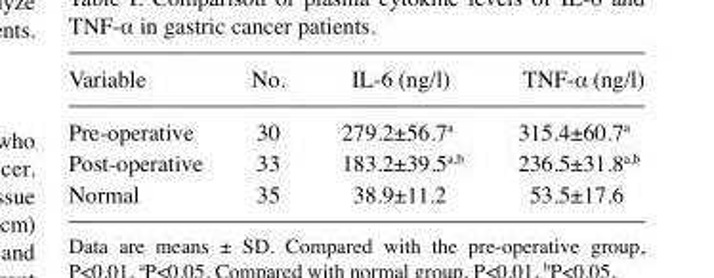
<table><thead><tr><td>Variable</td><td>No.</td><td>IL-6 (ng/l)</td><td>TNF-α (ng/l)</td></tr></thead><tbody><tr><td>Pre-operative</td><td>30</td><td>279.2±56.7<sup>a</sup></td><td>315.4±60.7<sup>a</sup></td></tr><tr><td>Post-operative</td><td>33</td><td>183.2±39.5<sup>a</sup>,<sup>b</sup></td><td>236.5±31.8<sup>a</sup>,<sup>b</sup></td></tr><tr><td>Normal</td><td>35</td><td>38.9±11.2</td><td>53.5±17.6</td></tr></tbody></table>